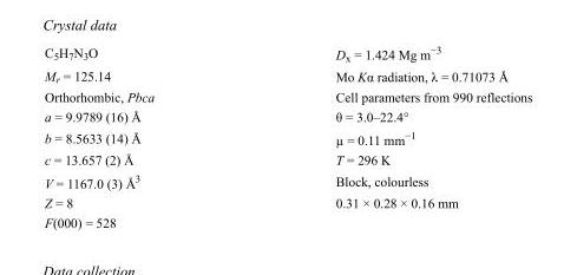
<table><tbody><tr><td>C<sub>5</sub>H<sub>7</sub>N<sub>3</sub>O</td><td>D<sub>x</sub> = 1.424 Mg m<sup>−3</sup></td></tr><tr><td>M<sub>r</sub> = 125.14</td><td>Mo Kα radiation, λ = 0.71073 Å</td></tr><tr><td>Orthorhombic, Pbca</td><td>Cell parameters from 990 reflections</td></tr><tr><td>a = 9.9789 (16) Å</td><td>θ = 3.0–22.4°</td></tr><tr><td>b = 8.5633 (14) Å</td><td>µ = 0.11 mm<sup>−1</sup></td></tr><tr><td>c = 13.657 (2) Å</td><td>T = 296 K</td></tr><tr><td>V = 1167.0 (3) Å<sup>3</sup></td><td>Block, colourless</td></tr><tr><td>Z = 8</td><td>0.31 × 0.28 × 0.16 mm</td></tr><tr><td>F(000) = 528</td><td></td></tr></tbody></table>